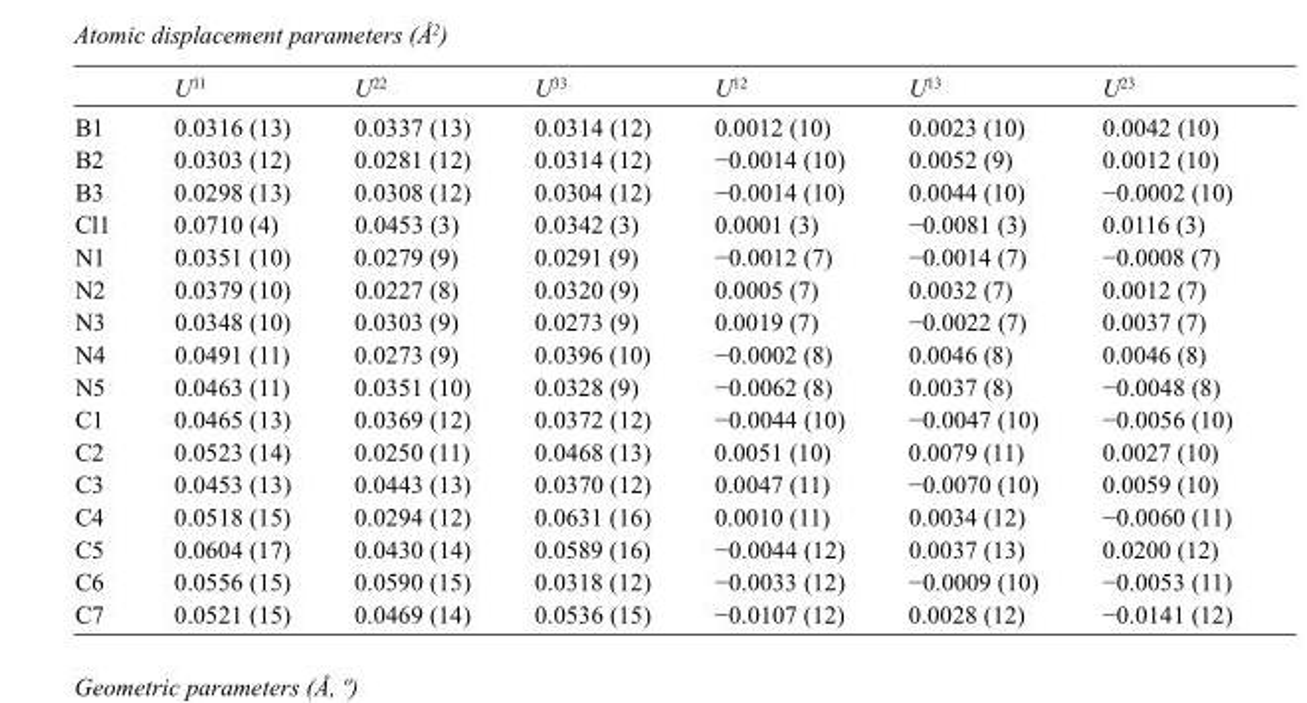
<table><thead><tr><td></td><td>U<sup>11</sup></td><td>U<sup>22</sup></td><td>U<sup>33</sup></td><td>U<sup>12</sup></td><td>U<sup>13</sup></td><td>U<sup>23</sup></td></tr></thead><tbody><tr><td>B1</td><td>0.0316 (13)</td><td>0.0337 (13)</td><td>0.0314 (12)</td><td>0.0012 (10)</td><td>0.0023 (10)</td><td>0.0042 (10)</td></tr><tr><td>B2</td><td>0.0303 (12)</td><td>0.0281 (12)</td><td>0.0314 (12)</td><td>−0.0014 (10)</td><td>0.0052 (9)</td><td>0.0012 (10)</td></tr><tr><td>B3</td><td>0.0298 (13)</td><td>0.0308 (12)</td><td>0.0304 (12)</td><td>−0.0014 (10)</td><td>0.0044 (10)</td><td>−0.0002 (10)</td></tr><tr><td>Cl1</td><td>0.0710 (4)</td><td>0.0453 (3)</td><td>0.0342 (3)</td><td>0.0001 (3)</td><td>−0.0081 (3)</td><td>0.0116 (3)</td></tr><tr><td>N1</td><td>0.0351 (10)</td><td>0.0279 (9)</td><td>0.0291 (9)</td><td>−0.0012 (7)</td><td>−0.0014 (7)</td><td>−0.0008 (7)</td></tr><tr><td>N2</td><td>0.0379 (10)</td><td>0.0227 (8)</td><td>0.0320 (9)</td><td>0.0005 (7)</td><td>0.0032 (7)</td><td>0.0012 (7)</td></tr><tr><td>N3</td><td>0.0348 (10)</td><td>0.0303 (9)</td><td>0.0273 (9)</td><td>0.0019 (7)</td><td>−0.0022 (7)</td><td>0.0037 (7)</td></tr><tr><td>N4</td><td>0.0491 (11)</td><td>0.0273 (9)</td><td>0.0396 (10)</td><td>−0.0002 (8)</td><td>0.0046 (8)</td><td>0.0046 (8)</td></tr><tr><td>N5</td><td>0.0463 (11)</td><td>0.0351 (10)</td><td>0.0328 (9)</td><td>−0.0062 (8)</td><td>0.0037 (8)</td><td>−0.0048 (8)</td></tr><tr><td>C1</td><td>0.0465 (13)</td><td>0.0369 (12)</td><td>0.0372 (12)</td><td>−0.0044 (10)</td><td>−0.0047 (10)</td><td>−0.0056 (10)</td></tr><tr><td>C2</td><td>0.0523 (14)</td><td>0.0250 (11)</td><td>0.0468 (13)</td><td>0.0051 (10)</td><td>0.0079 (11)</td><td>0.0027 (10)</td></tr><tr><td>C3</td><td>0.0453 (13)</td><td>0.0443 (13)</td><td>0.0370 (12)</td><td>0.0047 (11)</td><td>−0.0070 (10)</td><td>0.0059 (10)</td></tr><tr><td>C4</td><td>0.0518 (15)</td><td>0.0294 (12)</td><td>0.0631 (16)</td><td>0.0010 (11)</td><td>0.0034 (12)</td><td>−0.0060 (11)</td></tr><tr><td>C5</td><td>0.0604 (17)</td><td>0.0430 (14)</td><td>0.0589 (16)</td><td>−0.0044 (12)</td><td>0.0037 (13)</td><td>0.0200 (12)</td></tr><tr><td>C6</td><td>0.0556 (15)</td><td>0.0590 (15)</td><td>0.0318 (12)</td><td>−0.0033 (12)</td><td>−0.0009 (10)</td><td>−0.0053 (11)</td></tr><tr><td>C7</td><td>0.0521 (15)</td><td>0.0469 (14)</td><td>0.0536 (15)</td><td>−0.0107 (12)</td><td>0.0028 (12)</td><td>−0.0141 (12)</td></tr></tbody></table>